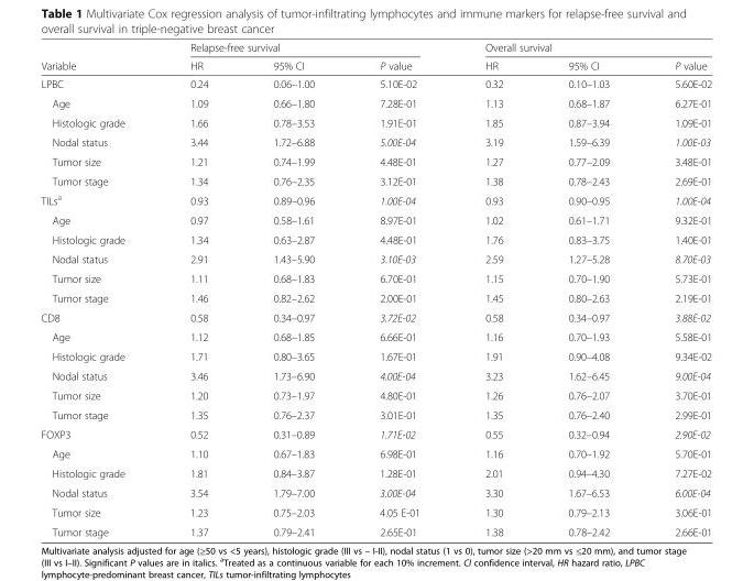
<table><thead><tr><td rowspan="2">Variable</td><td colspan="3">Relapse-free survival</td><td colspan="3">Overall survival</td></tr><tr><td>HR</td><td>95% CI</td><td>P value</td><td>HR</td><td>95% CI</td><td>P value</td></tr></thead><tbody><tr><td>LPBC</td><td>0.24</td><td>0.06–1.00</td><td>5.10E-02</td><td>0.32</td><td>0.10–1.03</td><td>5.60E-02</td></tr><tr><td>Age</td><td>1.09</td><td>0.66–1.80</td><td>7.28E-01</td><td>1.13</td><td>0.68–1.87</td><td>6.27E-01</td></tr><tr><td>Histologic grade</td><td>1.66</td><td>0.78–3.53</td><td>1.91E-01</td><td>1.85</td><td>0.87–3.94</td><td>1.09E-01</td></tr><tr><td>Nodal status</td><td>3.44</td><td>1.72–6.88</td><td>5.00E-04</td><td>3.19</td><td>1.59–6.39</td><td>1.00E-03</td></tr><tr><td>Tumor size</td><td>1.21</td><td>0.74–1.99</td><td>4.48E-01</td><td>1.27</td><td>0.77–2.09</td><td>3.48E-01</td></tr><tr><td>Tumor stage</td><td>1.34</td><td>0.76–2.35</td><td>3.12E-01</td><td>1.38</td><td>0.78–2.43</td><td>2.69E-01</td></tr><tr><td>TILs<sup>a</sup></td><td>0.93</td><td>0.89–0.96</td><td>1.00E-04</td><td>0.93</td><td>0.90–0.95</td><td>1.00E-04</td></tr><tr><td>Age</td><td>0.97</td><td>0.58–1.61</td><td>8.97E-01</td><td>1.02</td><td>0.61–1.71</td><td>9.32E-01</td></tr><tr><td>Histologic grade</td><td>1.34</td><td>0.63–2.87</td><td>4.48E-01</td><td>1.76</td><td>0.83–3.75</td><td>1.40E-01</td></tr><tr><td>Nodal status</td><td>2.91</td><td>1.43–5.90</td><td>3.10E-03</td><td>2.59</td><td>1.27–5.28</td><td>8.70E-03</td></tr><tr><td>Tumor size</td><td>1.11</td><td>0.68–1.83</td><td>6.70E-01</td><td>1.15</td><td>0.70–1.90</td><td>5.73E-01</td></tr><tr><td>Tumor stage</td><td>1.46</td><td>0.82–2.62</td><td>2.00E-01</td><td>1.45</td><td>0.80–2.63</td><td>2.19E-01</td></tr><tr><td>CD8</td><td>0.58</td><td>0.34–0.97</td><td>3.72E-02</td><td>0.58</td><td>0.34–0.97</td><td>3.88E-02</td></tr><tr><td>Age</td><td>1.12</td><td>0.68–1.85</td><td>6.66E-01</td><td>1.16</td><td>0.70–1.93</td><td>5.58E-01</td></tr><tr><td>Histologic grade</td><td>1.71</td><td>0.80–3.65</td><td>1.67E-01</td><td>1.91</td><td>0.90–4.08</td><td>9.34E-02</td></tr><tr><td>Nodal status</td><td>3.46</td><td>1.73–6.90</td><td>4.00E-04</td><td>3.23</td><td>1.62–6.45</td><td>9.00E-04</td></tr><tr><td>Tumor size</td><td>1.20</td><td>0.73–1.97</td><td>4.80E-01</td><td>1.26</td><td>0.76–2.07</td><td>3.70E-01</td></tr><tr><td>Tumor stage</td><td>1.35</td><td>0.76–2.37</td><td>3.01E-01</td><td>1.35</td><td>0.76–2.40</td><td>2.99E-01</td></tr><tr><td>FOXP3</td><td>0.52</td><td>0.31–0.89</td><td>1.71E-02</td><td>0.55</td><td>0.32–0.94</td><td>2.90E-02</td></tr><tr><td>Age</td><td>1.10</td><td>0.67–1.83</td><td>6.98E-01</td><td>1.16</td><td>0.70–1.92</td><td>5.70E-01</td></tr><tr><td>Histologic grade</td><td>1.81</td><td>0.84–3.87</td><td>1.28E-01</td><td>2.01</td><td>0.94–4.30</td><td>7.27E-02</td></tr><tr><td>Nodal status</td><td>3.54</td><td>1.79–7.00</td><td>3.00E-04</td><td>3.30</td><td>1.67–6.53</td><td>6.00E-04</td></tr><tr><td>Tumor size</td><td>1.23</td><td>0.75–2.03</td><td>4.05 E-01</td><td>1.30</td><td>0.79–2.13</td><td>3.06E-01</td></tr><tr><td>Tumor stage</td><td>1.37</td><td>0.79–2.41</td><td>2.65E-01</td><td>1.38</td><td>0.78–2.42</td><td>2.66E-01</td></tr></tbody></table>